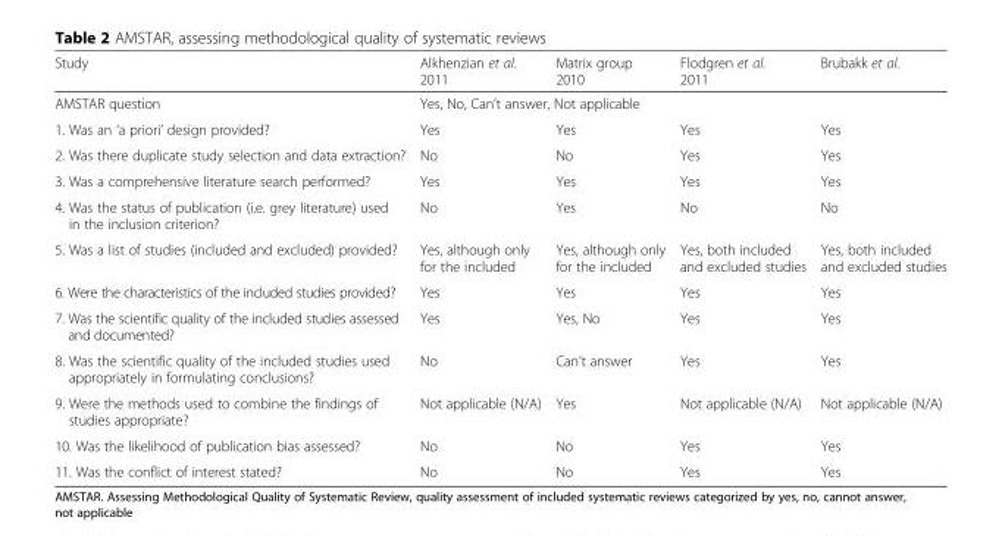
<table><thead><tr><td>Study</td><td>Alkhenzian et al. 2011</td><td>Matrix group 2010</td><td>Flodgren et al. 2011</td><td>Brubakk et al.</td></tr></thead><tbody><tr><td>AMSTAR question</td><td colspan="3">Yes, No, Can’t answer, Not applicable</td><td></td></tr><tr><td>1. Was an ‘a priori’ design provided?</td><td>Yes</td><td>Yes</td><td>Yes</td><td>Yes</td></tr><tr><td>2. Was there duplicate study selection and data extraction?</td><td>No</td><td>No</td><td>Yes</td><td>Yes</td></tr><tr><td>3. Was a comprehensive literature search performed?</td><td>Yes</td><td>Yes</td><td>Yes</td><td>Yes</td></tr><tr><td>4. Was the status of publication (i.e. grey literature) used in the inclusion criterion?</td><td>No</td><td>Yes</td><td>No</td><td>No</td></tr><tr><td>5. Was a list of studies (included and excluded) provided?</td><td>Yes, although only for the included</td><td>Yes, although only for the included</td><td>Yes, both included and excluded studies</td><td>Yes, both included and excluded studies</td></tr><tr><td>6. Were the characteristics of the included studies provided?</td><td>Yes</td><td>Yes</td><td>Yes</td><td>Yes</td></tr><tr><td>7. Was the scientific quality of the included studies assessed and documented?</td><td>Yes</td><td>Yes, No</td><td>Yes</td><td>Yes</td></tr><tr><td>8. Was the scientific quality of the included studies used appropriately in formulating conclusions?</td><td>No</td><td>Can’t answer</td><td>Yes</td><td>Yes</td></tr><tr><td>9. Were the methods used to combine the findings of studies appropriate?</td><td>Not applicable (N/A)</td><td>Yes</td><td>Not applicable (N/A)</td><td>Not applicable (N/A)</td></tr><tr><td>10. Was the likelihood of publication bias assessed?</td><td>No</td><td>No</td><td>Yes</td><td>Yes</td></tr><tr><td>11. Was the conflict of interest stated?</td><td>No</td><td>No</td><td>Yes</td><td>Yes</td></tr></tbody></table>